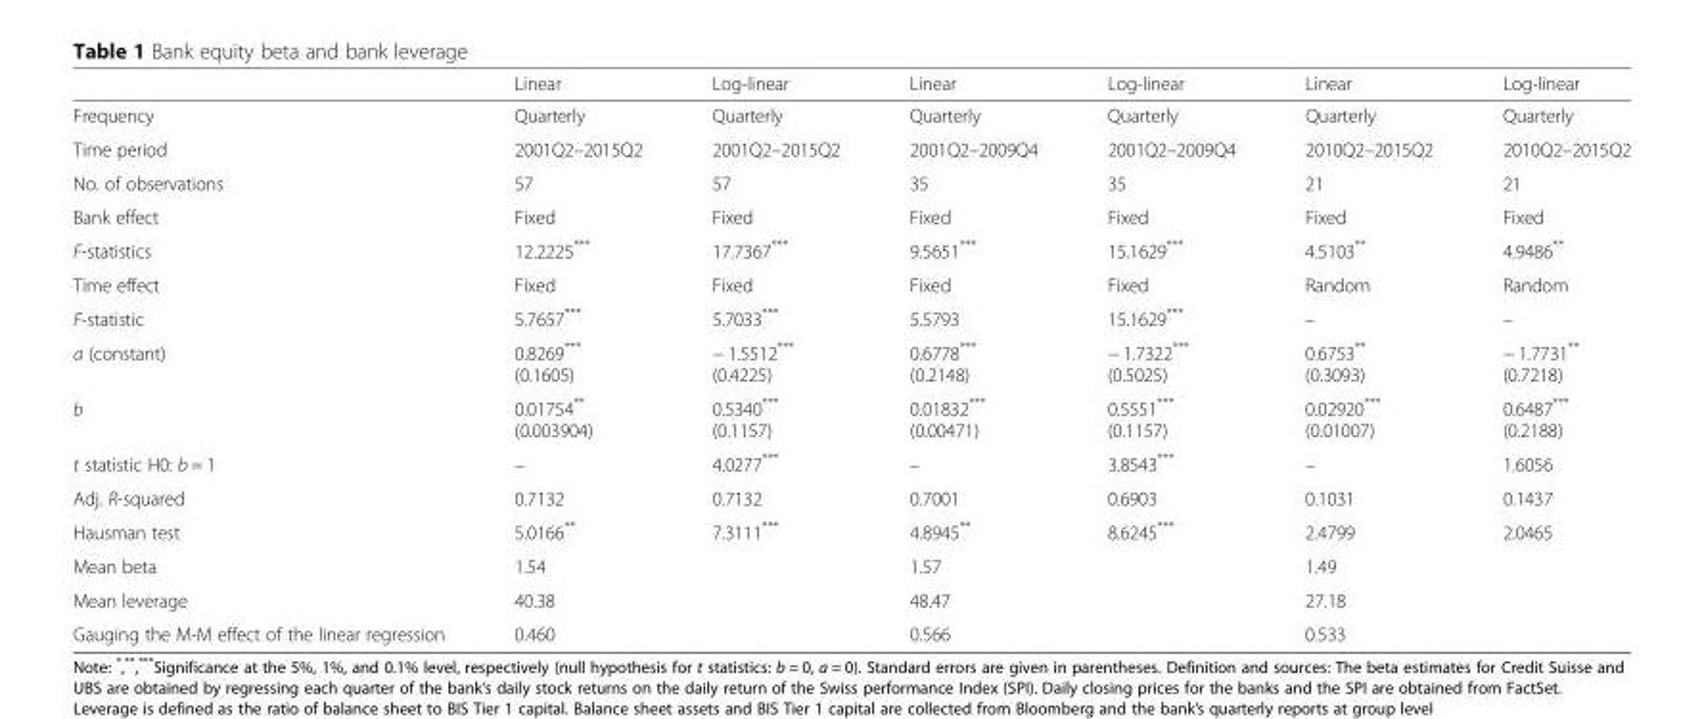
<table><thead><tr><td></td><td>Linear</td><td>Log-linear</td><td>Linear</td><td>Log-linear</td><td>Linear</td><td>Log-linear</td></tr></thead><tbody><tr><td>Frequency</td><td>Quarterly</td><td>Quarterly</td><td>Quarterly</td><td>Quarterly</td><td>Quarterly</td><td>Quarterly</td></tr><tr><td>Time period</td><td>2001Q2–2015Q2</td><td>2001Q2–2015Q2</td><td>2001Q2–2009Q4</td><td>2001Q2–2009Q4</td><td>2010Q2–2015Q2</td><td>2010Q2–2015Q2</td></tr><tr><td>No. of observations</td><td>57</td><td>57</td><td>35</td><td>35</td><td>21</td><td>21</td></tr><tr><td>Bank effect</td><td>Fixed</td><td>Fixed</td><td>Fixed</td><td>Fixed</td><td>Fixed</td><td>Fixed</td></tr><tr><td>F-statistics</td><td>12.2225***</td><td>17.7367***</td><td>9.5651***</td><td>15.1629***</td><td>4.5103**</td><td>4.9486**</td></tr><tr><td>Time effect</td><td>Fixed</td><td>Fixed</td><td>Fixed</td><td>Fixed</td><td>Random</td><td>Random</td></tr><tr><td>F-statistic</td><td>5.7657***</td><td>5.7033***</td><td>5.5793</td><td>15.1629***</td><td>–</td><td>–</td></tr><tr><td>a (constant)</td><td>0.8269*** (0.1605)</td><td>− 1.5512*** (0.4225)</td><td>0.6778*** (0.2148)</td><td>− 1.7322*** (0.5025)</td><td>0.6753** (0.3093)</td><td>− 1.7731** (0.7218)</td></tr><tr><td>b</td><td>0.01754** (0.003904)</td><td>0.5340*** (0.1157)</td><td>0.01832*** (0.00471)</td><td>0.5551*** (0.1157)</td><td>0.02920*** (0.01007)</td><td>0.6487*** (0.2188)</td></tr><tr><td>t statistic H0: b = 1</td><td>–</td><td>4.0277***</td><td>–</td><td>3.8543***</td><td>–</td><td>1.6056</td></tr><tr><td>Adj. R-squared</td><td>0.7132</td><td>0.7132</td><td>0.7001</td><td>0.6903</td><td>0.1031</td><td>0.1437</td></tr><tr><td>Hausman test</td><td>5.0166**</td><td>7.3111***</td><td>4.8945**</td><td>8.6245***</td><td>2.4799</td><td>2.0465</td></tr><tr><td>Mean beta</td><td>1.54</td><td></td><td>1.57</td><td></td><td>1.49</td><td></td></tr><tr><td>Mean leverage</td><td>40.38</td><td></td><td>48.47</td><td></td><td>27.18</td><td></td></tr><tr><td>Gauging the M-M effect of the linear regression</td><td>0.460</td><td></td><td>0.566</td><td></td><td>0.533</td><td></td></tr></tbody></table>